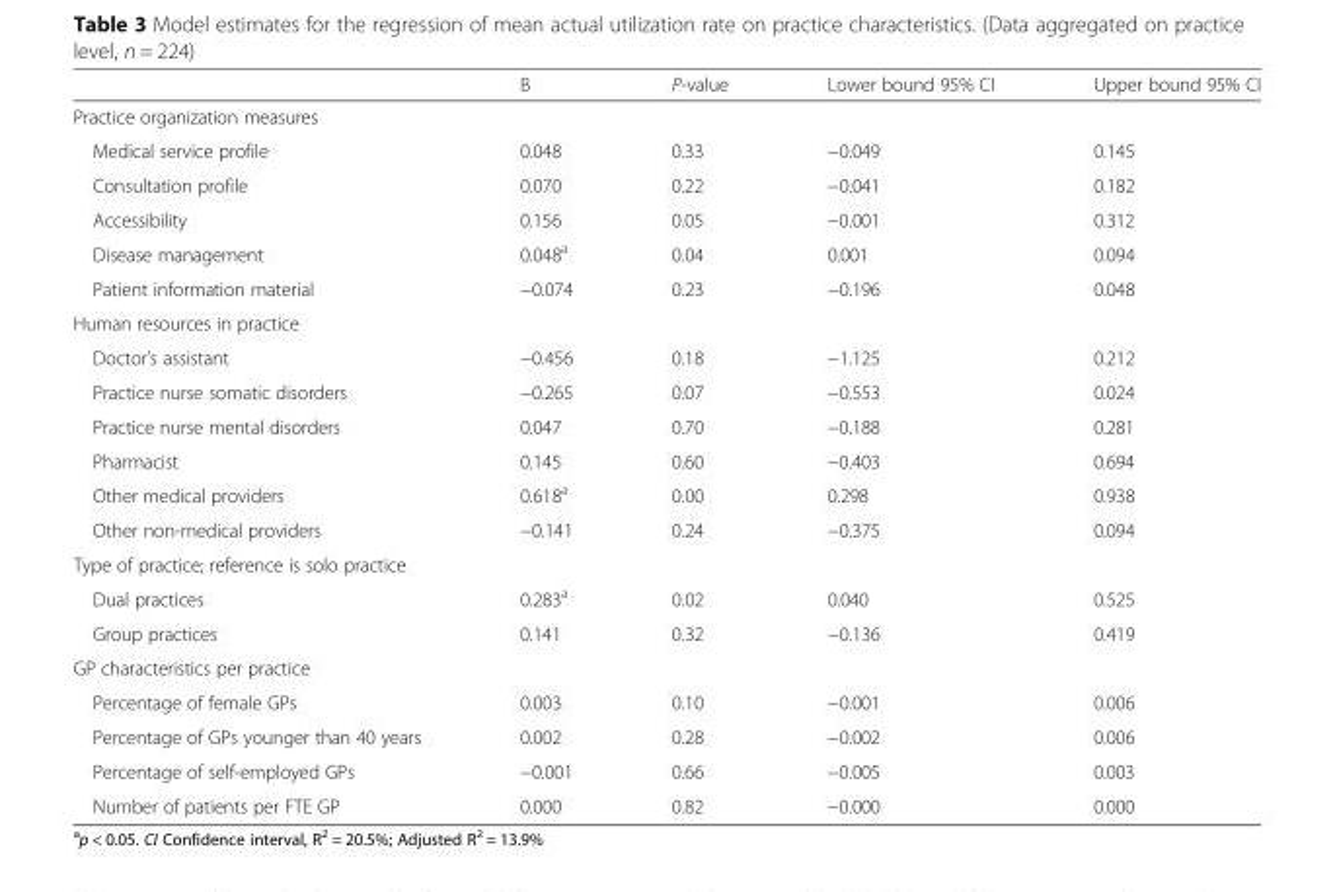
<table><thead><tr><td></td><td>B</td><td>P-value</td><td>Lower bound 95% CI</td><td>Upper bound 95% CI</td></tr></thead><tbody><tr><td colspan="5">Practice organization measures</td></tr><tr><td>Medical service profile</td><td>0.048</td><td>0.33</td><td>−0.049</td><td>0.145</td></tr><tr><td>Consultation profile</td><td>0.070</td><td>0.22</td><td>−0.041</td><td>0.182</td></tr><tr><td>Accessibility</td><td>0.156</td><td>0.05</td><td>−0.001</td><td>0.312</td></tr><tr><td>Disease management</td><td>0.048<sup>a</sup></td><td>0.04</td><td>0.001</td><td>0.094</td></tr><tr><td>Patient information material</td><td>−0.074</td><td>0.23</td><td>−0.196</td><td>0.048</td></tr><tr><td colspan="5">Human resources in practice</td></tr><tr><td>Doctor’s assistant</td><td>−0.456</td><td>0.18</td><td>−1.125</td><td>0.212</td></tr><tr><td>Practice nurse somatic disorders</td><td>−0.265</td><td>0.07</td><td>−0.553</td><td>0.024</td></tr><tr><td>Practice nurse mental disorders</td><td>0.047</td><td>0.70</td><td>−0.188</td><td>0.281</td></tr><tr><td>Pharmacist</td><td>0.145</td><td>0.60</td><td>−0.403</td><td>0.694</td></tr><tr><td>Other medical providers</td><td>0.618<sup>a</sup></td><td>0.00</td><td>0.298</td><td>0.938</td></tr><tr><td>Other non-medical providers</td><td>−0.141</td><td>0.24</td><td>−0.375</td><td>0.094</td></tr><tr><td colspan="5">Type of practice; reference is solo practice</td></tr><tr><td>Dual practices</td><td>0.283<sup>a</sup></td><td>0.02</td><td>0.040</td><td>0.525</td></tr><tr><td>Group practices</td><td>0.141</td><td>0.32</td><td>−0.136</td><td>0.419</td></tr><tr><td colspan="5">GP characteristics per practice</td></tr><tr><td>Percentage of female GPs</td><td>0.003</td><td>0.10</td><td>−0.001</td><td>0.006</td></tr><tr><td>Percentage of GPs younger than 40 years</td><td>0.002</td><td>0.28</td><td>−0.002</td><td>0.006</td></tr><tr><td>Percentage of self-employed GPs</td><td>−0.001</td><td>0.66</td><td>−0.005</td><td>0.003</td></tr><tr><td>Number of patients per FTE GP</td><td>0.000</td><td>0.82</td><td>−0.000</td><td>0.000</td></tr></tbody></table>